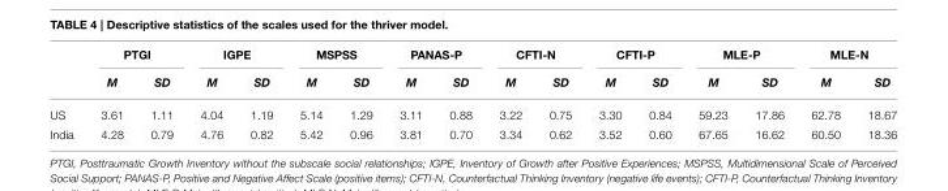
<table><thead><tr><td rowspan="2"></td><td colspan="2">PTGI</td><td colspan="2">IGPE</td><td colspan="2">MSPSS</td><td colspan="2">PANAS-P</td><td colspan="2">CFTI-N</td><td colspan="2">CFTI-P</td><td colspan="2">MLE-P</td><td colspan="2">MLE-N</td></tr><tr><td>M</td><td>SD</td><td>M</td><td>SD</td><td>M</td><td>SD</td><td>M</td><td>SD</td><td>M</td><td>SD</td><td>M</td><td>SD</td><td>M</td><td>SD</td><td>M</td><td>SD</td></tr></thead><tbody><tr><td>US</td><td>3.61</td><td>1.11</td><td>4.04</td><td>1.19</td><td>5.14</td><td>1.29</td><td>3.11</td><td>0.88</td><td>3.22</td><td>0.75</td><td>3.30</td><td>0.84</td><td>59.23</td><td>17.86</td><td>62.78</td><td>18.67</td></tr><tr><td>India</td><td>4.28</td><td>0.79</td><td>4.76</td><td>0.82</td><td>5.42</td><td>0.96</td><td>3.81</td><td>0.70</td><td>3.34</td><td>0.62</td><td>3.52</td><td>0.60</td><td>67.65</td><td>16.62</td><td>60.50</td><td>18.36</td></tr></tbody></table>